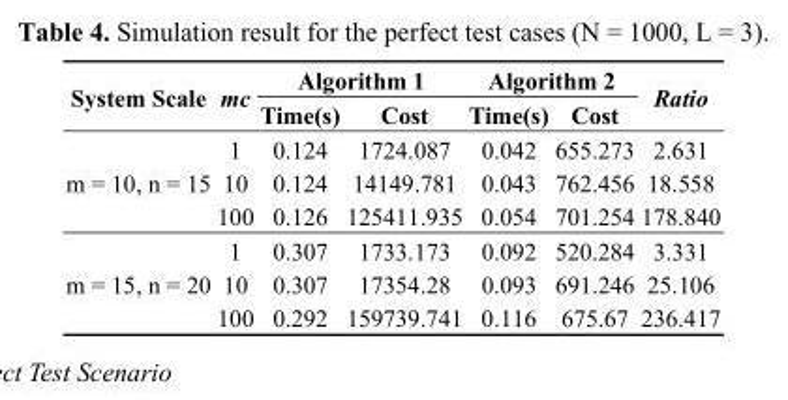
<table><thead><tr><td rowspan="2">System Scale</td><td rowspan="2">mc</td><td colspan="2">Algorithm 1</td><td colspan="2">Algorithm 2</td><td rowspan="2">Ratio</td></tr><tr><td>Time(s)</td><td>Cost</td><td>Time(s)</td><td>Cost</td></tr></thead><tbody><tr><td rowspan="3">m = 10, n = 15</td><td>1</td><td>0.124</td><td>1724.087</td><td>0.042</td><td>655.273</td><td>2.631</td></tr><tr><td>10</td><td>0.124</td><td>14149.781</td><td>0.043</td><td>762.456</td><td>18.558</td></tr><tr><td>100</td><td>0.126</td><td>125411.935</td><td>0.054</td><td>701.254</td><td>178.840</td></tr><tr><td rowspan="3">m = 15, n = 20</td><td>1</td><td>0.307</td><td>1733.173</td><td>0.092</td><td>520.284</td><td>3.331</td></tr><tr><td>10</td><td>0.307</td><td>17354.28</td><td>0.093</td><td>691.246</td><td>25.106</td></tr><tr><td>100</td><td>0.292</td><td>159739.741</td><td>0.116</td><td>675.67</td><td>236.417</td></tr></tbody></table>